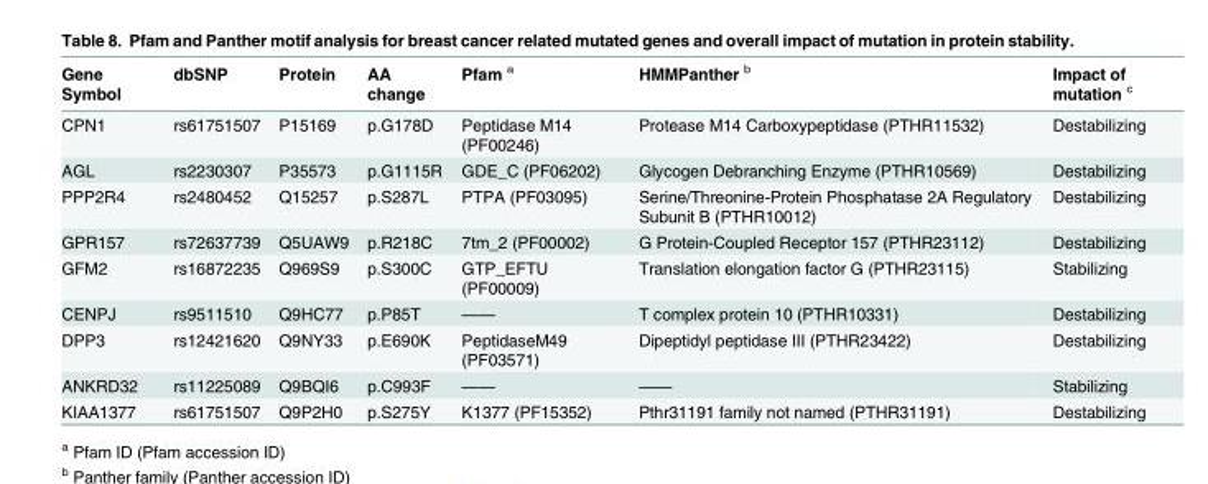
<table><thead><tr><td>Gene Symbol</td><td>dbSNP</td><td>Protein</td><td>AA change</td><td>Pfam <sup>a</sup></td><td>HMMPanther <sup>b</sup></td><td>Impact of mutation <sup>c</sup></td></tr></thead><tbody><tr><td>CPN1</td><td>rs61751507</td><td>P15169</td><td>p.G178D</td><td>Peptidase M14 (PF00246)</td><td>Protease M14 Carboxypeptidase (PTHR11532)</td><td>Destabilizing</td></tr><tr><td>AGL</td><td>rs2230307</td><td>P35573</td><td>p.G1115R</td><td>GDE_C (PF06202)</td><td>Glycogen Debranching Enzyme (PTHR10569)</td><td>Destabilizing</td></tr><tr><td>PPP2R4</td><td>rs2480452</td><td>Q15257</td><td>p.S287L</td><td>PTPA (PF03095)</td><td>Serine/Threonine-Protein Phosphatase 2A Regulatory Subunit B (PTHR10012)</td><td>Destabilizing</td></tr><tr><td>GPR157</td><td>rs72637739</td><td>Q5UAW9</td><td>p.R218C</td><td>7tm_2 (PF00002)</td><td>G Protein-Coupled Receptor 157 (PTHR23112)</td><td>Destabilizing</td></tr><tr><td>GFM2</td><td>rs16872235</td><td>Q969S9</td><td>p.S300C</td><td>GTP_EFTU (PF00009)</td><td>Translation elongation factor G (PTHR23115)</td><td>Stabilizing</td></tr><tr><td>CENPJ</td><td>rs9511510</td><td>Q9HC77</td><td>p.P85T</td><td>——</td><td>T complex protein 10 (PTHR10331)</td><td>Destabilizing</td></tr><tr><td>DPP3</td><td>rs12421620</td><td>Q9NY33</td><td>p.E690K</td><td>PeptidaseM49 (PF03571)</td><td>Dipeptidyl peptidase III (PTHR23422)</td><td>Destabilizing</td></tr><tr><td>ANKRD32</td><td>rs11225089</td><td>Q9BQI6</td><td>p.C993F</td><td>——</td><td>——</td><td>Stabilizing</td></tr><tr><td>KIAA1377</td><td>rs61751507</td><td>Q9P2H0</td><td>p.S275Y</td><td>K1377 (PF15352)</td><td>Pthr31191 family not named (PTHR31191)</td><td>Destabilizing</td></tr></tbody></table>